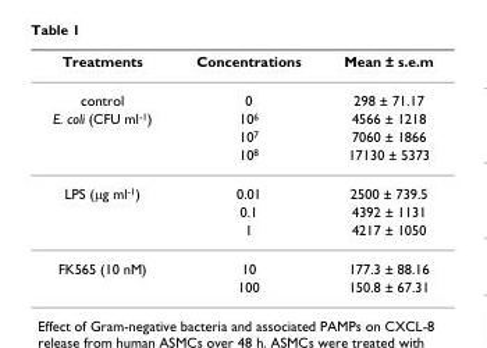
<table><thead><tr><td>Treatments</td><td>Concentrations</td><td>Mean ± s.e.m</td></tr></thead><tbody><tr><td>control</td><td>0</td><td>298 ± 71.17</td></tr><tr><td rowspan="3">E. coli (CFU ml<sup>-1</sup>)</td><td>10<sup>6</sup></td><td>4566 ± 1218</td></tr><tr><td>10<sup>7</sup></td><td>7060 ± 1866</td></tr><tr><td>10<sup>8</sup></td><td>17130 ± 5373</td></tr><tr><td rowspan="3">LPS (μg ml<sup>-1</sup>)</td><td>0.01</td><td>2500 ± 739.5</td></tr><tr><td>0.1</td><td>4392 ± 1131</td></tr><tr><td>1</td><td>4217 ± 1050</td></tr><tr><td rowspan="2">FK565 (10 nM)</td><td>10</td><td>177.3 ± 88.16</td></tr><tr><td>100</td><td>150.8 ± 67.31</td></tr></tbody></table>